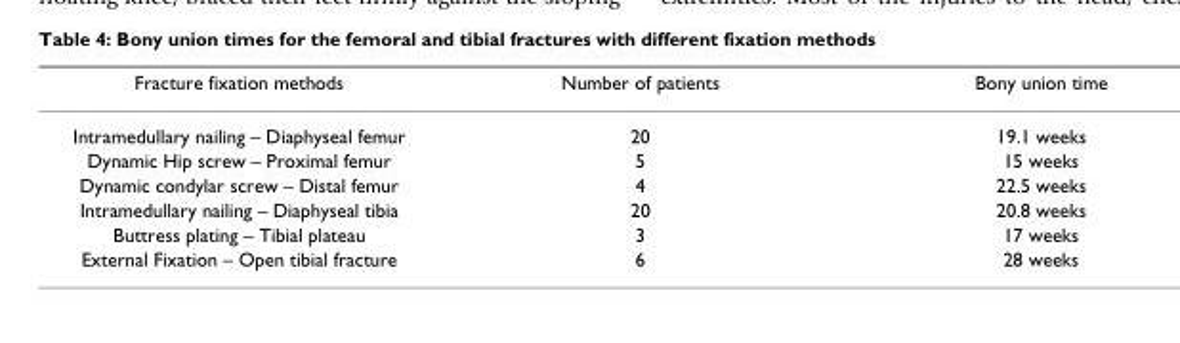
<table><thead><tr><td>Fracture fixation methods</td><td>Number of patients</td><td>Bony union time</td></tr></thead><tbody><tr><td>Intramedullary nailing – Diaphyseal femur</td><td>20</td><td>19.1 weeks</td></tr><tr><td>Dynamic Hip screw – Proximal femur</td><td>5</td><td>15 weeks</td></tr><tr><td>Dynamic condylar screw – Distal femur</td><td>4</td><td>22.5 weeks</td></tr><tr><td>Intramedullary nailing – Diaphyseal tibia</td><td>20</td><td>20.8 weeks</td></tr><tr><td>Buttress plating – Tibial plateau</td><td>3</td><td>17 weeks</td></tr><tr><td>External Fixation – Open tibial fracture</td><td>6</td><td>28 weeks</td></tr></tbody></table>